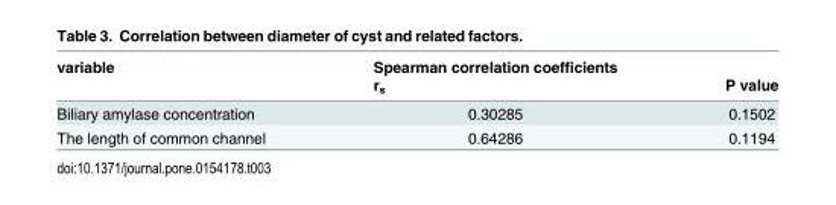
<table><thead><tr><td rowspan="2">variable</td><td rowspan="2">Spearman correlation coefficients r<sub>s</sub></td><td rowspan="2">P value</td></tr><tr></tr></thead><tbody><tr><td>Biliary amylase concentration</td><td>0.30285</td><td>0.1502</td></tr><tr><td>The length of common channel</td><td>0.64286</td><td>0.1194</td></tr></tbody></table>